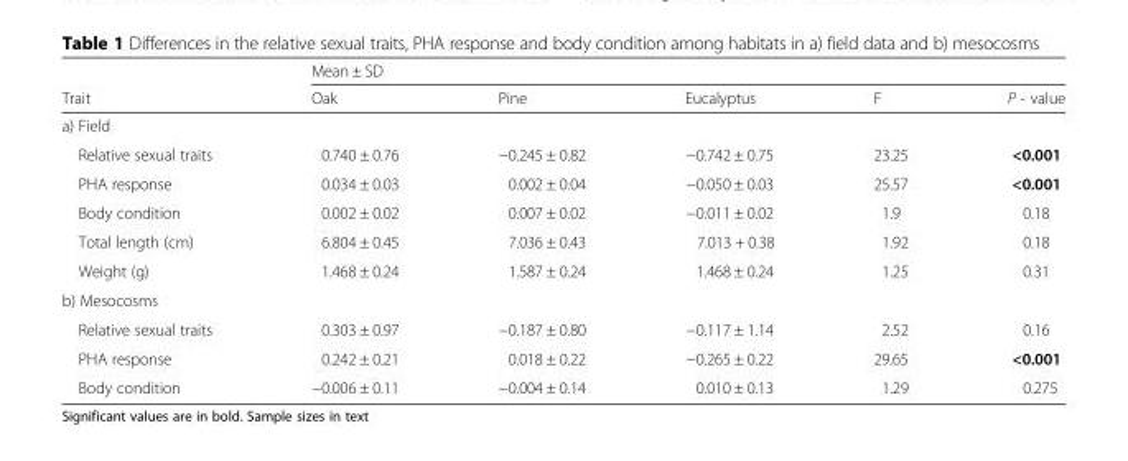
<table><thead><tr><td rowspan="2">Trait</td><td colspan="5">Mean ± SD</td></tr><tr><td>Oak</td><td>Pine</td><td>Eucalyptus</td><td>F</td><td>P - value</td></tr></thead><tbody><tr><td colspan="6">a) Field</td></tr><tr><td>Relative sexual traits</td><td>0.740 ± 0.76</td><td>−0.245 ± 0.82</td><td>−0.742 ± 0.75</td><td>23.25</td><td>&lt;0.001</td></tr><tr><td>PHA response</td><td>0.034 ± 0.03</td><td>0.002 ± 0.04</td><td>−0.050 ± 0.03</td><td>25.57</td><td>&lt;0.001</td></tr><tr><td>Body condition</td><td>0.002 ± 0.02</td><td>0.007 ± 0.02</td><td>−0.011 ± 0.02</td><td>1.9</td><td>0.18</td></tr><tr><td>Total length (cm)</td><td>6.804 ± 0.45</td><td>7.036 ± 0.43</td><td>7.013 + 0.38</td><td>1.92</td><td>0.18</td></tr><tr><td>Weight (g)</td><td>1.468 ± 0.24</td><td>1.587 ± 0.24</td><td>1.468 ± 0.24</td><td>1.25</td><td>0.31</td></tr><tr><td colspan="6">b) Mesocosms</td></tr><tr><td>Relative sexual traits</td><td>0.303 ± 0.97</td><td>−0.187 ± 0.80</td><td>−0.117 ± 1.14</td><td>2.52</td><td>0.16</td></tr><tr><td>PHA response</td><td>0.242 ± 0.21</td><td>0.018 ± 0.22</td><td>−0.265 ± 0.22</td><td>29.65</td><td>&lt;0.001</td></tr><tr><td>Body condition</td><td>−0.006 ± 0.11</td><td>−0.004 ± 0.14</td><td>0.010 ± 0.13</td><td>1.29</td><td>0.275</td></tr></tbody></table>